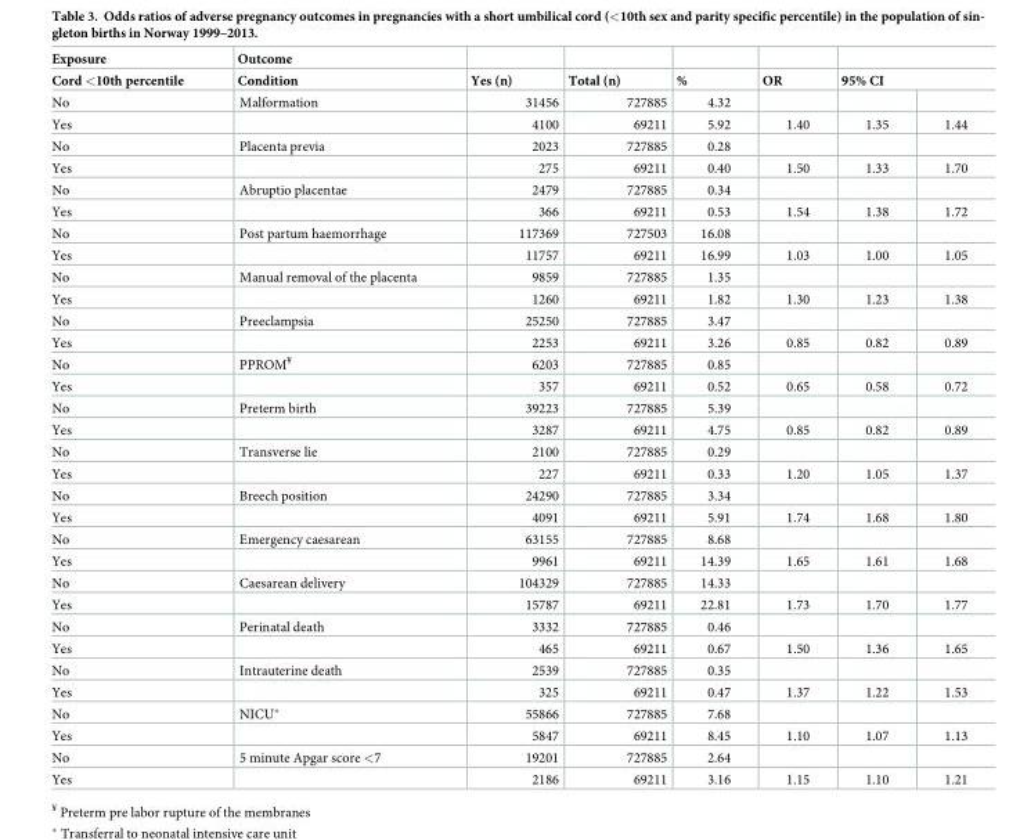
<table><thead><tr><td rowspan="2">Exposure Cord &lt;10th percentile</td><td rowspan="2">Outcome Condition</td><td rowspan="2">Yes (n)</td><td rowspan="2">Total (n)</td><td rowspan="2">%</td><td rowspan="2">OR</td><td></td><td></td></tr><tr><td colspan="2">95% CI</td></tr></thead><tbody><tr><td>No</td><td>Malformation</td><td>31456</td><td>727885</td><td>4.32</td><td></td><td></td><td></td></tr><tr><td>Yes</td><td></td><td>4100</td><td>69211</td><td>5.92</td><td>1.40</td><td>1.35</td><td>1.44</td></tr><tr><td>No</td><td>Placenta previa</td><td>2023</td><td>727885</td><td>0.28</td><td></td><td></td><td></td></tr><tr><td>Yes</td><td></td><td>275</td><td>69211</td><td>0.40</td><td>1.50</td><td>1.33</td><td>1.70</td></tr><tr><td>No</td><td>Abruptio placentae</td><td>2479</td><td>727885</td><td>0.34</td><td></td><td></td><td></td></tr><tr><td>Yes</td><td></td><td>366</td><td>69211</td><td>0.53</td><td>1.54</td><td>1.38</td><td>1.72</td></tr><tr><td>No</td><td>Post partum haemorrhage</td><td>117369</td><td>727503</td><td>16.08</td><td></td><td></td><td></td></tr><tr><td>Yes</td><td></td><td>11757</td><td>69211</td><td>16.99</td><td>1.03</td><td>1.00</td><td>1.05</td></tr><tr><td>No</td><td>Manual removal of the placenta</td><td>9859</td><td>727885</td><td>1.35</td><td></td><td></td><td></td></tr><tr><td>Yes</td><td></td><td>1260</td><td>69211</td><td>1.82</td><td>1.30</td><td>1.23</td><td>1.38</td></tr><tr><td>No</td><td>Preeclampsia</td><td>25250</td><td>727885</td><td>3.47</td><td></td><td></td><td></td></tr><tr><td>Yes</td><td></td><td>2253</td><td>69211</td><td>3.26</td><td>0.85</td><td>0.82</td><td>0.89</td></tr><tr><td>No</td><td>PPROM<sup>¥</sup></td><td>6203</td><td>727885</td><td>0.85</td><td></td><td></td><td></td></tr><tr><td>Yes</td><td></td><td>357</td><td>69211</td><td>0.52</td><td>0.65</td><td>0.58</td><td>0.72</td></tr><tr><td>No</td><td>Preterm birth</td><td>39223</td><td>727885</td><td>5.39</td><td></td><td></td><td></td></tr><tr><td>Yes</td><td></td><td>3287</td><td>69211</td><td>4.75</td><td>0.85</td><td>0.82</td><td>0.89</td></tr><tr><td>No</td><td>Transverse lie</td><td>2100</td><td>727885</td><td>0.29</td><td></td><td></td><td></td></tr><tr><td>Yes</td><td></td><td>227</td><td>69211</td><td>0.33</td><td>1.20</td><td>1.05</td><td>1.37</td></tr><tr><td>No</td><td>Breech position</td><td>24290</td><td>727885</td><td>3.34</td><td></td><td></td><td></td></tr><tr><td>Yes</td><td></td><td>4091</td><td>69211</td><td>5.91</td><td>1.74</td><td>1.68</td><td>1.80</td></tr><tr><td>No</td><td>Emergency caesarean</td><td>63155</td><td>727885</td><td>8.68</td><td></td><td></td><td></td></tr><tr><td>Yes</td><td></td><td>9961</td><td>69211</td><td>14.39</td><td>1.65</td><td>1.61</td><td>1.68</td></tr><tr><td>No</td><td>Caesarean delivery</td><td>104329</td><td>727885</td><td>14.33</td><td></td><td></td><td></td></tr><tr><td>Yes</td><td></td><td>15787</td><td>69211</td><td>22.81</td><td>1.73</td><td>1.70</td><td>1.77</td></tr><tr><td>No</td><td>Perinatal death</td><td>3332</td><td>727885</td><td>0.46</td><td></td><td></td><td></td></tr><tr><td>Yes</td><td></td><td>465</td><td>69211</td><td>0.67</td><td>1.50</td><td>1.36</td><td>1.65</td></tr><tr><td>No</td><td>Intrauterine death</td><td>2539</td><td>727885</td><td>0.35</td><td></td><td></td><td></td></tr><tr><td>Yes</td><td></td><td>325</td><td>69211</td><td>0.47</td><td>1.37</td><td>1.22</td><td>1.53</td></tr><tr><td>No</td><td>NICU*</td><td>55866</td><td>727885</td><td>7.68</td><td></td><td></td><td></td></tr><tr><td>Yes</td><td></td><td>5847</td><td>69211</td><td>8.45</td><td>1.10</td><td>1.07</td><td>1.13</td></tr><tr><td>No</td><td>5 minute Apgar score &lt;7</td><td>19201</td><td>727885</td><td>2.64</td><td></td><td></td><td></td></tr><tr><td>Yes</td><td></td><td>2186</td><td>69211</td><td>3.16</td><td>1.15</td><td>1.10</td><td>1.21</td></tr></tbody></table>